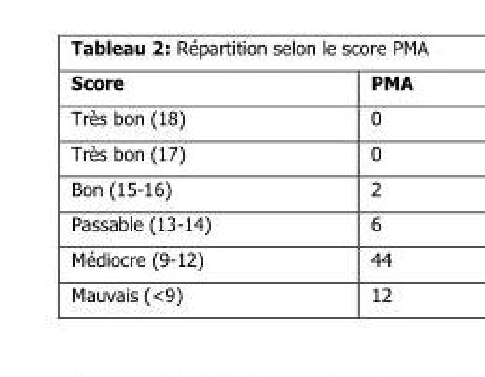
<table><thead><tr><td>Score</td><td>PMA</td></tr></thead><tbody><tr><td>Très bon (18)</td><td>0</td></tr><tr><td>Très bon (17)</td><td>0</td></tr><tr><td>Bon (15-16)</td><td>2</td></tr><tr><td>Passable (13-14)</td><td>6</td></tr><tr><td>Médiocre (9-12)</td><td>44</td></tr><tr><td>Mauvais (&lt;9)</td><td>12</td></tr></tbody></table>